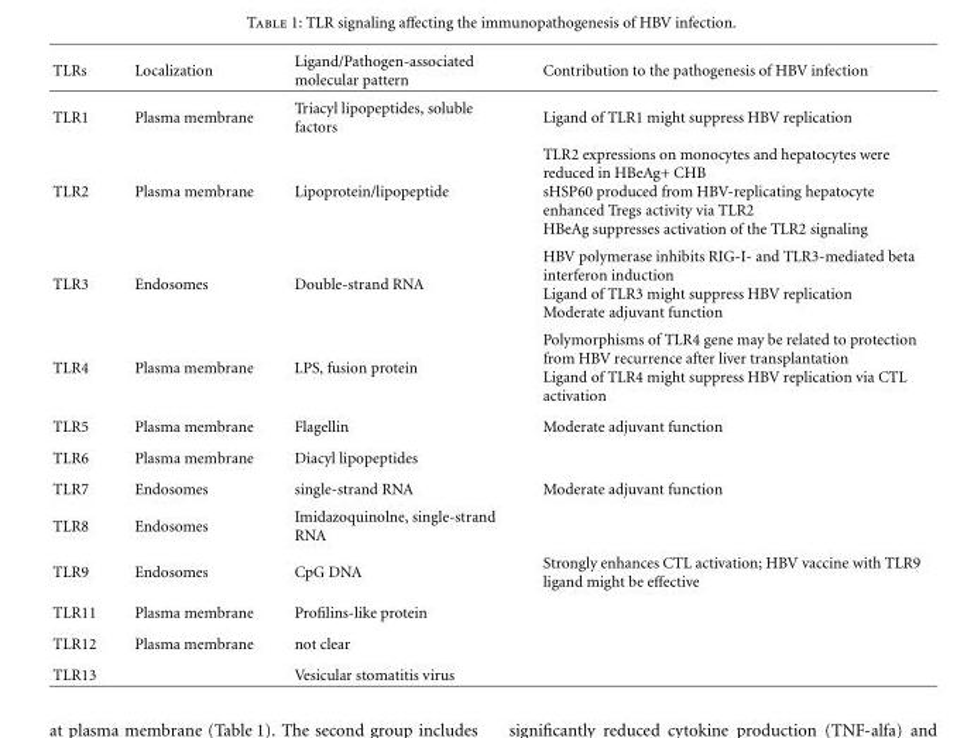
<table><thead><tr><td>TLRs</td><td>Localization</td><td>Ligand/Pathogen-associated molecular pattern</td><td>Contribution to the pathogenesis of HBV infection</td></tr></thead><tbody><tr><td>TLR1</td><td>Plasma membrane</td><td>Triacyl lipopeptides, soluble factors</td><td>Ligand of TLR1 might suppress HBV replication</td></tr><tr><td>TLR2</td><td>Plasma membrane</td><td>Lipoprotein/lipopeptide</td><td>TLR2 expressions on monocytes and hepatocytes were reduced in HBeAg+ CHB sHSP60 produced from HBV-replicating hepatocyte enhanced Tregs activity via TLR2 HBeAg suppresses activation of the TLR2 signaling</td></tr><tr><td>TLR3</td><td>Endosomes</td><td>Double-strand RNA</td><td>HBV polymerase inhibits RIG-I- and TLR3-mediated beta interferon induction Ligand of TLR3 might suppress HBV replication Moderate adjuvant function</td></tr><tr><td>TLR4</td><td>Plasma membrane</td><td>LPS, fusion protein</td><td>Polymorphisms of TLR4 gene may be related to protection from HBV recurrence after liver transplantation Ligand of TLR4 might suppress HBV replication via CTL activation</td></tr><tr><td>TLR5</td><td>Plasma membrane</td><td>Flagellin</td><td>Moderate adjuvant function</td></tr><tr><td>TLR6</td><td>Plasma membrane</td><td>Diacyl lipopeptides</td><td></td></tr><tr><td>TLR7</td><td>Endosomes</td><td>single-strand RNA</td><td>Moderate adjuvant function</td></tr><tr><td>TLR8</td><td>Endosomes</td><td>Imidazoquinolne, single-strand RNA</td><td></td></tr><tr><td>TLR9</td><td>Endosomes</td><td>CpG DNA</td><td>Strongly enhances CTL activation; HBV vaccine with TLR9 ligand might be effective</td></tr><tr><td>TLR11</td><td>Plasma membrane</td><td>Profilins-like protein</td><td></td></tr><tr><td>TLR12</td><td>Plasma membrane</td><td>not clear</td><td></td></tr><tr><td>TLR13</td><td></td><td>Vesicular stomatitis virus</td><td></td></tr></tbody></table>